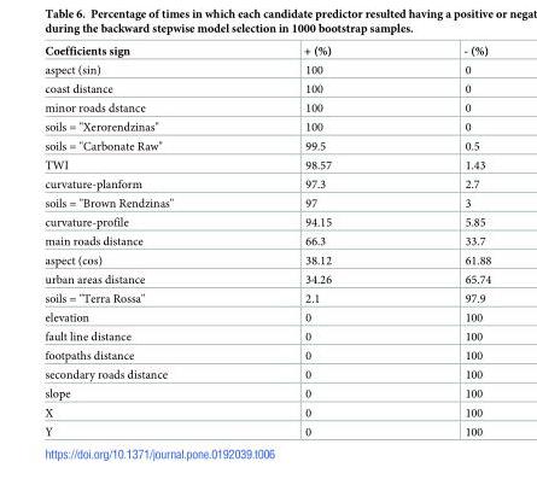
<table><thead><tr><td>Coefficients sign</td><td>+ (%)</td><td>- (%)</td></tr></thead><tbody><tr><td>aspect (sin)</td><td>100</td><td>0</td></tr><tr><td>coast distance</td><td>100</td><td>0</td></tr><tr><td>minor roads dstance</td><td>100</td><td>0</td></tr><tr><td>soils = &quot;Xerorendzinas&quot;</td><td>100</td><td>0</td></tr><tr><td>soils = &quot;Carbonate Raw&quot;</td><td>99.5</td><td>0.5</td></tr><tr><td>TWI</td><td>98.57</td><td>1.43</td></tr><tr><td>curvature-planform</td><td>97.3</td><td>2.7</td></tr><tr><td>soils = &quot;Brown Rendzinas&quot;</td><td>97</td><td>3</td></tr><tr><td>curvature-profile</td><td>94.15</td><td>5.85</td></tr><tr><td>main roads distance</td><td>66.3</td><td>33.7</td></tr><tr><td>aspect (cos)</td><td>38.12</td><td>61.88</td></tr><tr><td>urban areas distance</td><td>34.26</td><td>65.74</td></tr><tr><td>soils = &quot;Terra Rossa&quot;</td><td>2.1</td><td>97.9</td></tr><tr><td>elevation</td><td>0</td><td>100</td></tr><tr><td>fault line distance</td><td>0</td><td>100</td></tr><tr><td>footpaths distance</td><td>0</td><td>100</td></tr><tr><td>secondary roads distance</td><td>0</td><td>100</td></tr><tr><td>slope</td><td>0</td><td>100</td></tr><tr><td>X</td><td>0</td><td>100</td></tr><tr><td>Y</td><td>0</td><td>100</td></tr></tbody></table>